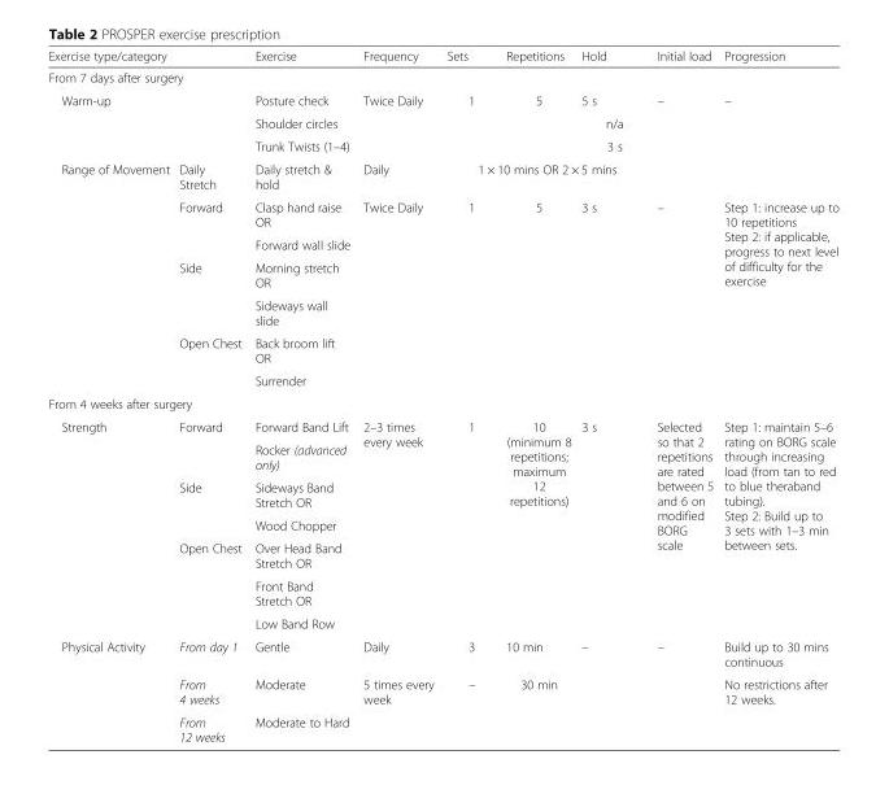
<table><thead><tr><td colspan="2">Exercise type/category</td><td>Exercise</td><td>Frequency</td><td>Sets</td><td>Repetitions</td><td>Hold</td><td>Initial load</td><td>Progression</td></tr></thead><tbody><tr><td colspan="9">From 7 days after surgery</td></tr><tr><td rowspan="3" colspan="2">Warm-up</td><td>Posture check</td><td rowspan="3">Twice Daily</td><td rowspan="3">1</td><td rowspan="3">5</td><td>5 s</td><td rowspan="4">–</td><td rowspan="4">–</td></tr><tr><td>Shoulder circles</td><td>n/a</td></tr><tr><td>Trunk Twists (1–4)</td><td>3 s</td></tr><tr><td rowspan="7">Range of Movement</td><td>Daily Stretch</td><td>Daily stretch &amp; hold</td><td>Daily</td><td colspan="3">1 × 10 mins OR 2 × 5 mins</td></tr><tr><td rowspan="2">Forward</td><td>Clasp hand raise OR</td><td rowspan="6">Twice Daily</td><td rowspan="6">1</td><td rowspan="6">5</td><td rowspan="6">3 s</td><td rowspan="6">–</td><td rowspan="6">Step 1: increase up to 10 repetitions Step 2: if applicable, progress to next level of difficulty for the exercise</td></tr><tr><td>Forward wall slide</td></tr><tr><td rowspan="2">Side</td><td>Morning stretch OR</td></tr><tr><td>Sideways wall slide</td></tr><tr><td rowspan="2">Open Chest</td><td>Back broom lift OR</td></tr><tr><td>Surrender</td></tr><tr><td colspan="9">From 4 weeks after surgery</td></tr><tr><td rowspan="7">Strength</td><td rowspan="2">Forward</td><td>Forward Band Lift</td><td rowspan="7">2–3 times every week</td><td rowspan="7">1</td><td rowspan="7">10 (minimum 8 repetitions; maximum 12 repetitions)</td><td rowspan="7">3 s</td><td rowspan="7">Selected so that 2 repetitions are rated between 5 and 6 on modified BORG scale</td><td rowspan="7">Step 1: maintain 5–6 rating on BORG scale through increasing load (from tan to red to blue theraband tubing). Step 2: Build up to 3 sets with 1–3 min between sets.</td></tr><tr><td>Rocker (advanced only)</td></tr><tr><td rowspan="2">Side</td><td>Sideways Band Stretch OR</td></tr><tr><td>Wood Chopper</td></tr><tr><td rowspan="3">Open Chest</td><td>Over Head Band Stretch OR</td></tr><tr><td>Front Band Stretch OR</td></tr><tr><td>Low Band Row</td></tr><tr><td rowspan="3">Physical Activity</td><td>From day 1</td><td>Gentle</td><td>Daily</td><td>3</td><td>10 min</td><td rowspan="3">–</td><td rowspan="3">–</td><td>Build up to 30 mins continuous</td></tr><tr><td>From 4 weeks</td><td>Moderate</td><td rowspan="2">5 times every week</td><td rowspan="2">–</td><td rowspan="2">30 min</td><td rowspan="2">No restrictions after 12 weeks.</td></tr><tr><td>From 12 weeks</td><td>Moderate to Hard</td></tr></tbody></table>